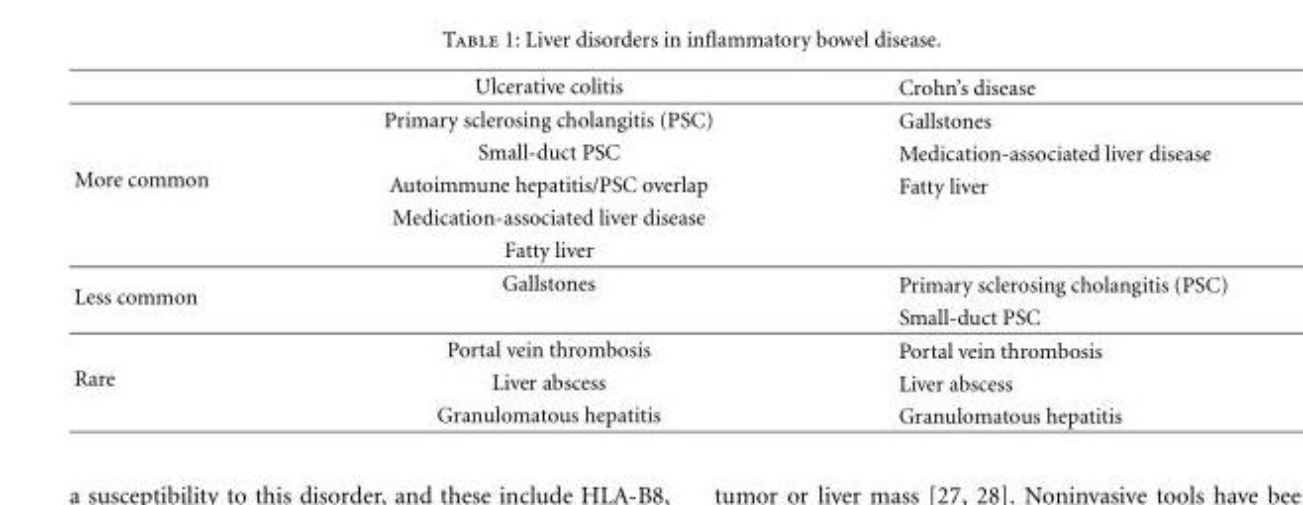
<table><thead><tr><td></td><td>Ulcerative colitis</td><td>Crohn’s disease</td></tr></thead><tbody><tr><td rowspan="5">More common</td><td>Primary sclerosing cholangitis (PSC)</td><td>Gallstones</td></tr><tr><td>Small-duct PSC</td><td>Medication-associated liver disease</td></tr><tr><td>Autoimmune hepatitis/PSC overlap</td><td>Fatty liver</td></tr><tr><td>Medication-associated liver disease</td><td></td></tr><tr><td>Fatty liver</td><td></td></tr><tr><td rowspan="2">Less common</td><td>Gallstones</td><td>Primary sclerosing cholangitis (PSC)</td></tr><tr><td></td><td>Small-duct PSC</td></tr><tr><td rowspan="3">Rare</td><td>Portal vein thrombosis</td><td>Portal vein thrombosis</td></tr><tr><td>Liver abscess</td><td>Liver abscess</td></tr><tr><td>Granulomatous hepatitis</td><td>Granulomatous hepatitis</td></tr></tbody></table>